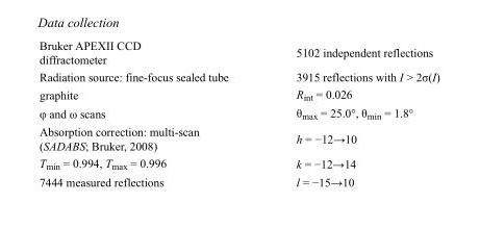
<table><tbody><tr><td>Bruker APEXII CCD diffractometer</td><td>5102 independent reflections</td></tr><tr><td>Radiation source: fine-focus sealed tube</td><td>3915 reflections with I &gt; 2σ(I)</td></tr><tr><td>graphite</td><td>R<sub>int</sub> = 0.026</td></tr><tr><td>φ and ω scans</td><td>θ<sub>max</sub> = 25.0°, θ<sub>min</sub> = 1.8°</td></tr><tr><td>Absorption correction: multi-scan (SADABS; Bruker, 2008)</td><td>h = −12→10</td></tr><tr><td>T<sub>min</sub> = 0.994, T<sub>max</sub> = 0.996</td><td>k = −12→14</td></tr><tr><td>7444 measured reflections</td><td>l = −15→10</td></tr></tbody></table>